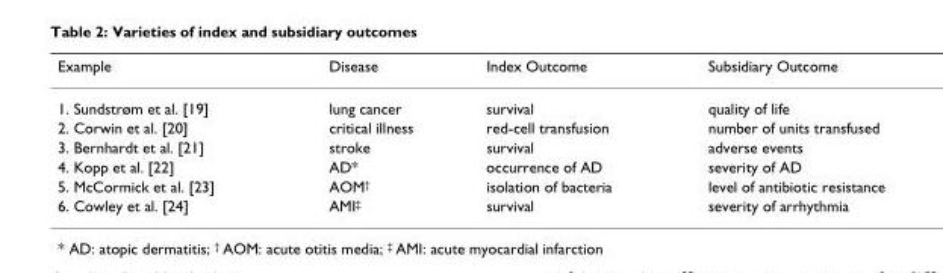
<table><thead><tr><td>Example</td><td>Disease</td><td>Index Outcome</td><td>Subsidiary Outcome</td></tr></thead><tbody><tr><td>1. Sundstrøm et al. [19]</td><td>lung cancer</td><td>survival</td><td>quality of life</td></tr><tr><td>2. Corwin et al. [20]</td><td>critical illness</td><td>red-cell transfusion</td><td>number of units transfused</td></tr><tr><td>3. Bernhardt et al. [21]</td><td>stroke</td><td>survival</td><td>adverse events</td></tr><tr><td>4. Kopp et al. [22]</td><td>AD*</td><td>occurrence of AD</td><td>severity of AD</td></tr><tr><td>5. McCormick et al. [23]</td><td>AOM<sup>†</sup></td><td>isolation of bacteria</td><td>level of antibiotic resistance</td></tr><tr><td>6. Cowley et al. [24]</td><td>AMI<sup>‡</sup></td><td>survival</td><td>severity of arrhythmia</td></tr></tbody></table>